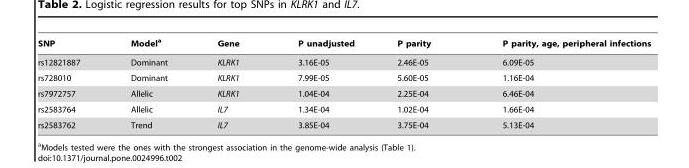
<table><thead><tr><td>SNP</td><td>Model<sup>a</sup></td><td>Gene</td><td>P unadjusted</td><td>P parity</td><td>P parity, age, peripheral infections</td></tr></thead><tbody><tr><td>rs12821887</td><td>Dominant</td><td>KLRK1</td><td>3.16E-05</td><td>2.46E-05</td><td>6.09E-05</td></tr><tr><td>rs728010</td><td>Dominant</td><td>KLRK1</td><td>7.99E-05</td><td>5.60E-05</td><td>1.16E-04</td></tr><tr><td>rs7972757</td><td>Allelic</td><td>KLRK1</td><td>1.04E-04</td><td>2.25E-04</td><td>6.46E-04</td></tr><tr><td>rs2583764</td><td>Allelic</td><td>IL7</td><td>1.34E-04</td><td>1.02E-04</td><td>1.66E-04</td></tr><tr><td>rs2583762</td><td>Trend</td><td>IL7</td><td>3.85E-04</td><td>3.75E-04</td><td>5.13E-04</td></tr></tbody></table>